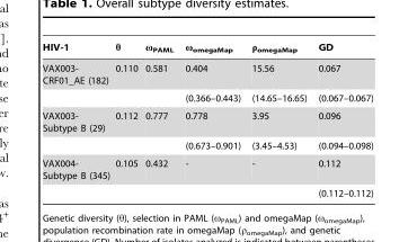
<table><thead><tr><td>HIV-1</td><td>θ</td><td>ω<sub>PAML</sub></td><td>ω<sub>omegaMap</sub></td><td>ρ<sub>omegaMap</sub></td><td>GD</td></tr></thead><tbody><tr><td rowspan="2">VAX003- CRF01_AE (182)</td><td>0.110</td><td>0.581</td><td>0.404</td><td>15.56</td><td>0.067</td></tr><tr><td></td><td></td><td>(0.366–0.443)</td><td>(14.65–16.65)</td><td>(0.067–0.067)</td></tr><tr><td rowspan="2">VAX003- Subtype B (29)</td><td>0.112</td><td>0.777</td><td>0.778</td><td>3.95</td><td>0.096</td></tr><tr><td></td><td></td><td>(0.673–0.901)</td><td>(3.45–4.53)</td><td>(0.094–0.098)</td></tr><tr><td rowspan="2">VAX004- Subtype B (345)</td><td>0.105</td><td>0.432</td><td>-</td><td>-</td><td>0.112</td></tr><tr><td></td><td></td><td></td><td></td><td>(0.112–0.112)</td></tr></tbody></table>